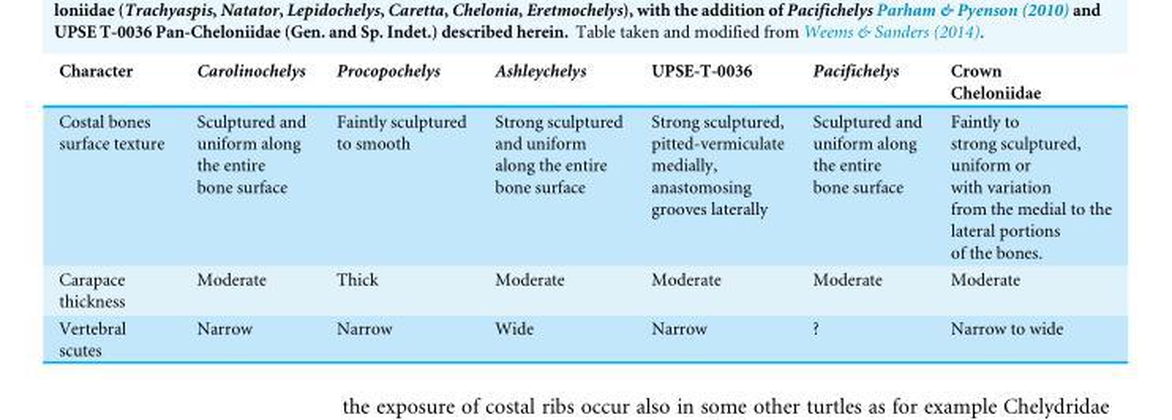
<table><thead><tr><td>Character</td><td>Carolinochelys</td><td>Procopochelys</td><td>Ashleychelys</td><td>UPSE-T-0036</td><td>Pacifichelys</td><td>Crown Cheloniidae</td></tr></thead><tbody><tr><td>Costal bones surface texture</td><td>Sculptured and uniform along the entire bone surface</td><td>Faintly sculptured to smooth</td><td>Strong sculptured and uniform along the entire bone surface</td><td>Strong sculptured, pitted-vermiculate medially, anastomosing grooves laterally</td><td>Sculptured and uniform along the entire bone surface</td><td>Faintly to strong sculptured, uniform or with variation from the medial to the lateral portions of the bones.</td></tr><tr><td>Carapace thickness</td><td>Moderate</td><td>Thick</td><td>Moderate</td><td>Moderate</td><td>Moderate</td><td>Moderate</td></tr><tr><td>Vertebral scutes</td><td>Narrow</td><td>Narrow</td><td>Wide</td><td>Narrow</td><td>?</td><td>Narrow to wide</td></tr></tbody></table>